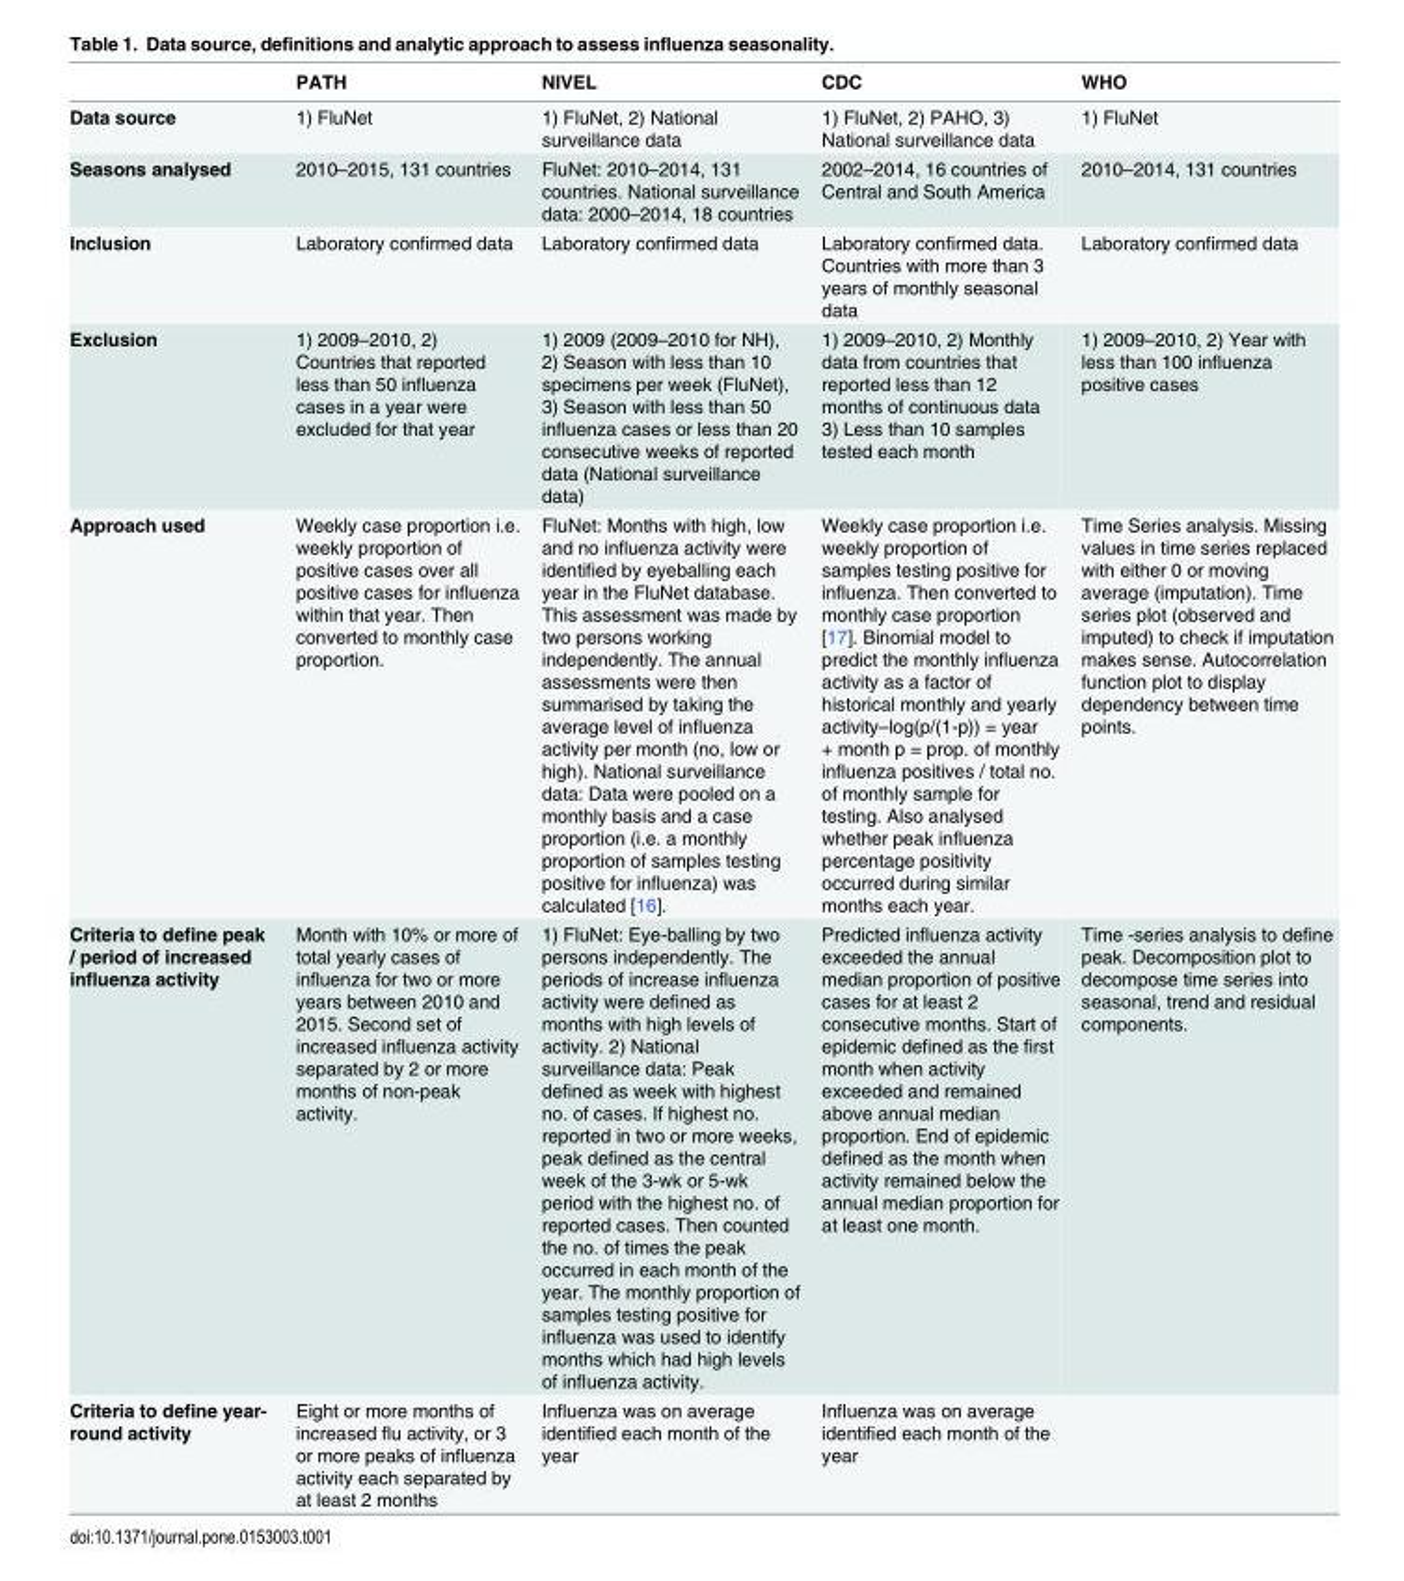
<table><thead><tr><td></td><td>PATH</td><td>NIVEL</td><td>CDC</td><td>WHO</td></tr></thead><tbody><tr><td>Data source</td><td>1) FluNet</td><td>1) FluNet, 2) National surveillance data</td><td>1) FluNet, 2) PAHO, 3) National surveillance data</td><td>1) FluNet</td></tr><tr><td>Seasons analysed</td><td>2010–2015, 131 countries</td><td>FluNet: 2010–2014, 131 countries. National surveillance data: 2000–2014, 18 countries</td><td>2002–2014, 16 countries of Central and South America</td><td>2010–2014, 131 countries</td></tr><tr><td>Inclusion</td><td>Laboratory confirmed data</td><td>Laboratory confirmed data</td><td>Laboratory confirmed data. Countries with more than 3 years of monthly seasonal data</td><td>Laboratory confirmed data</td></tr><tr><td>Exclusion</td><td>1) 2009–2010, 2) Countries that reported less than 50 influenza cases in a year were excluded for that year</td><td>1) 2009 (2009–2010 for NH), 2) Season with less than 10 specimens per week (FluNet), 3) Season with less than 50 influenza cases or less than 20 consecutive weeks of reported data (National surveillance data)</td><td>1) 2009–2010, 2) Monthly data from countries that reported less than 12 months of continuous data 3) Less than 10 samples tested each month</td><td>1) 2009–2010, 2) Year with less than 100 influenza positive cases</td></tr><tr><td>Approach used</td><td>Weekly case proportion i.e. weekly proportion of positive cases over all positive cases for influenza within that year. Then converted to monthly case proportion.</td><td>FluNet: Months with high, low and no influenza activity were identified by eyeballing each year in the FluNet database. This assessment was made by two persons working independently. The annual assessments were then summarised by taking the average level of influenza activity per month (no, low or high). National surveillance data: Data were pooled on a monthly basis and a case proportion (i.e. a monthly proportion of samples testing positive for influenza) was calculated [16].</td><td>Weekly case proportion i.e. weekly proportion of samples testing positive for influenza. Then converted to monthly case proportion [17]. Binomial model to predict the monthly influenza activity as a factor of historical monthly and yearly activity–log(p/(1-p)) = year + month p = prop. of monthly influenza positives / total no. of monthly sample for testing. Also analysed whether peak influenza percentage positivity occurred during similar months each year.</td><td>Time Series analysis. Missing values in time series replaced with either 0 or moving average (imputation). Time series plot (observed and imputed) to check if imputation makes sense. Autocorrelation function plot to display dependency between time points.</td></tr><tr><td>Criteria to define peak / period of increased influenza activity</td><td>Month with 10% or more of total yearly cases of influenza for two or more years between 2010 and 2015. Second set of increased influenza activity separated by 2 or more months of non-peak activity.</td><td>1) FluNet: Eye-balling by two persons independently. The periods of increase influenza activity were defined as months with high levels of activity. 2) National surveillance data: Peak defined as week with highest no. of cases. If highest no. reported in two or more weeks, peak defined as the central week of the 3-wk or 5-wk period with the highest no. of reported cases. Then counted the no. of times the peak occurred in each month of the year. The monthly proportion of samples testing positive for influenza was used to identify months which had high levels of influenza activity.</td><td>Predicted influenza activity exceeded the annual median proportion of positive cases for at least 2 consecutive months. Start of epidemic defined as the first month when activity exceeded and remained above annual median proportion. End of epidemic defined as the month when activity remained below the annual median proportion for at least one month.</td><td>Time -series analysis to define peak. Decomposition plot to decompose time series into seasonal, trend and residual components.</td></tr><tr><td>Criteria to define year- round activity</td><td>Eight or more months of increased flu activity, or 3 or more peaks of influenza activity each separated by at least 2 months</td><td>Influenza was on average identified each month of the year</td><td>Influenza was on average identified each month of the year</td><td></td></tr></tbody></table>